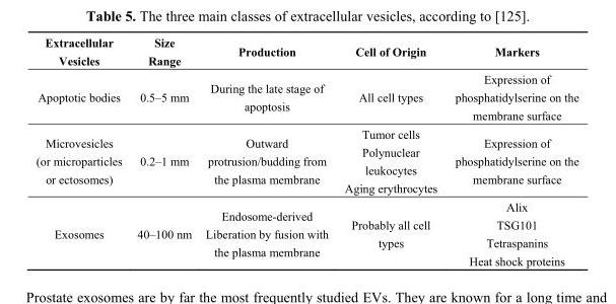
<table><thead><tr><td>Extracellular Vesicles</td><td>Size Range</td><td>Production</td><td>Cell of Origin</td><td>Markers</td></tr></thead><tbody><tr><td>Apoptotic bodies</td><td>0.5–5 mm</td><td>During the late stage of apoptosis</td><td>All cell types</td><td>Expression of phosphatidylserine on the membrane surface</td></tr><tr><td>Microvesicles (or microparticles or ectosomes)</td><td>0.2–1 mm</td><td>Outward protrusion/budding from the plasma membrane</td><td>Tumor cells Polynuclear leukocytes Aging erythrocytes</td><td>Expression of phosphatidylserine on the membrane surface</td></tr><tr><td>Exosomes</td><td>40–100 nm</td><td>Endosome-derived Liberation by fusion with the plasma membrane</td><td>Probably all cell types</td><td>Alix TSG101 Tetraspanins Heat shock proteins</td></tr></tbody></table>